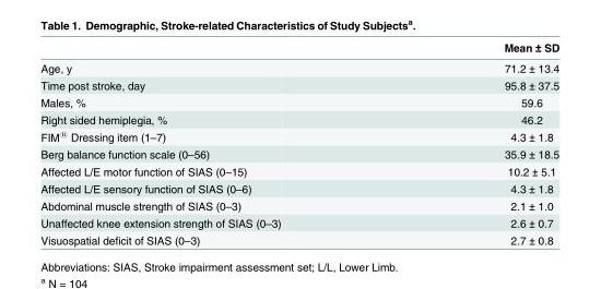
<table><thead><tr><td></td><td>Mean ± SD</td></tr></thead><tbody><tr><td>Age, y</td><td>71.2 ± 13.4</td></tr><tr><td>Time post stroke, day</td><td>95.8 ± 37.5</td></tr><tr><td>Males, %</td><td>59.6</td></tr><tr><td>Right sided hemiplegia, %</td><td>46.2</td></tr><tr><td>FIM<sup>®</sup> Dressing item (1–7)</td><td>4.3 ± 1.8</td></tr><tr><td>Berg balance function scale (0–56)</td><td>35.9 ± 18.5</td></tr><tr><td>Affected L/E motor function of SIAS (0–15)</td><td>10.2 ± 5.1</td></tr><tr><td>Affected L/E sensory function of SIAS (0–6)</td><td>4.3 ± 1.8</td></tr><tr><td>Abdominal muscle strength of SIAS (0–3)</td><td>2.1 ± 1.0</td></tr><tr><td>Unaffected knee extension strength of SIAS (0–3)</td><td>2.6 ± 0.7</td></tr><tr><td>Visuospatial deficit of SIAS (0–3)</td><td>2.7 ± 0.8</td></tr></tbody></table>